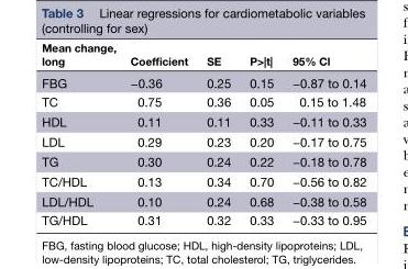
<table><thead><tr><td>Mean change, long</td><td>Coefficient</td><td>SE</td><td>P&gt;|t|</td><td>95% Cl</td></tr></thead><tbody><tr><td>FBG</td><td>−0.36</td><td>0.25</td><td>0.15</td><td>−0.87 to 0.14</td></tr><tr><td>TC</td><td>0.75</td><td>0.36</td><td>0.05</td><td>0.15 to 1.48</td></tr><tr><td>HDL</td><td>0.11</td><td>0.11</td><td>0.33</td><td>−0.11 to 0.33</td></tr><tr><td>LDL</td><td>0.29</td><td>0.23</td><td>0.20</td><td>−0.17 to 0.75</td></tr><tr><td>TG</td><td>0.30</td><td>0.24</td><td>0.22</td><td>−0.18 to 0.78</td></tr><tr><td>TC/HDL</td><td>0.13</td><td>0.34</td><td>0.70</td><td>−0.56 to 0.82</td></tr><tr><td>LDL/HDL</td><td>0.10</td><td>0.24</td><td>0.68</td><td>−0.38 to 0.58</td></tr><tr><td>TG/HDL</td><td>0.31</td><td>0.32</td><td>0.33</td><td>−0.33 to 0.95</td></tr></tbody></table>